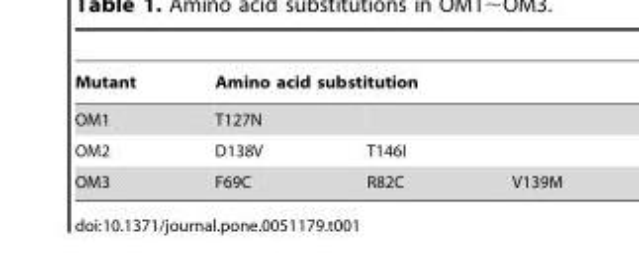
<table><thead><tr><td rowspan="2">Mutant OM1</td><td colspan="3">Amino acid substitution</td></tr><tr><td>T127N</td><td></td><td></td></tr></thead><tbody><tr><td>OM2</td><td>D138V</td><td>T146I</td><td></td></tr><tr><td>OM3</td><td>F69C</td><td>R82C</td><td>V139M</td></tr></tbody></table>